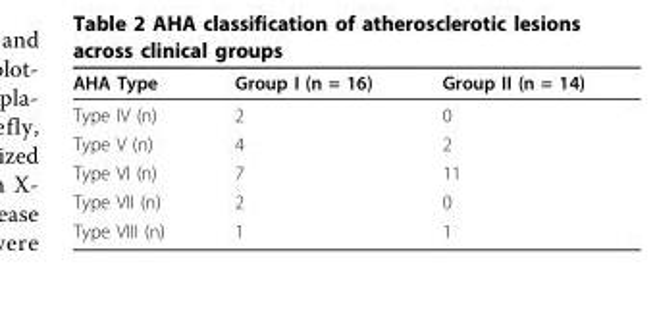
<table><thead><tr><td>AHA Type</td><td>Group I (n = 16)</td><td>Group II (n = 14)</td></tr></thead><tbody><tr><td>Type IV (n)</td><td>2</td><td>0</td></tr><tr><td>Type V (n)</td><td>4</td><td>2</td></tr><tr><td>Type VI (n)</td><td>7</td><td>11</td></tr><tr><td>Type VII (n)</td><td>2</td><td>0</td></tr><tr><td>Type VIII (n)</td><td>1</td><td>1</td></tr></tbody></table>